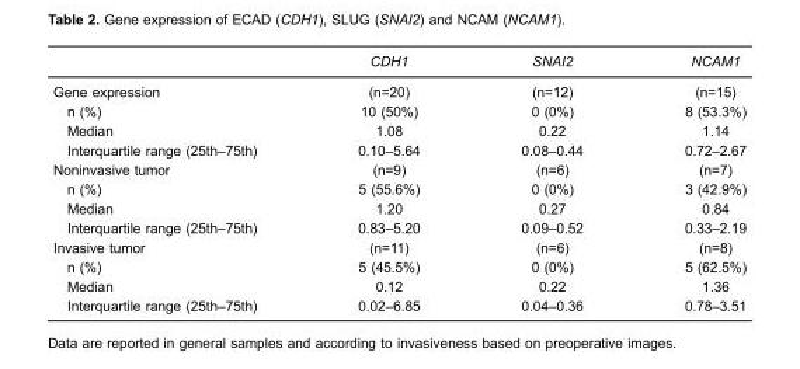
<table><thead><tr><td></td><td>CDH1</td><td>SNAI2</td><td>NCAM1</td></tr></thead><tbody><tr><td>Gene expression</td><td>(n=20)</td><td>(n=12)</td><td>(n=15)</td></tr><tr><td>n (%)</td><td>10 (50%)</td><td>0 (0%)</td><td>8 (53.3%)</td></tr><tr><td>Median</td><td>1.08</td><td>0.22</td><td>1.14</td></tr><tr><td>Interquartile range (25th–75th)</td><td>0.10–5.64</td><td>0.08–0.44</td><td>0.72–2.67</td></tr><tr><td>Noninvasive tumor</td><td>(n=9)</td><td>(n=6)</td><td>(n=7)</td></tr><tr><td>n (%)</td><td>5 (55.6%)</td><td>0 (0%)</td><td>3 (42.9%)</td></tr><tr><td>Median</td><td>1.20</td><td>0.27</td><td>0.84</td></tr><tr><td>Interquartile range (25th–75th)</td><td>0.83–5.20</td><td>0.09–0.52</td><td>0.33–2.19</td></tr><tr><td>Invasive tumor</td><td>(n=11)</td><td>(n=6)</td><td>(n=8)</td></tr><tr><td>n (%)</td><td>5 (45.5%)</td><td>0 (0%)</td><td>5 (62.5%)</td></tr><tr><td>Median</td><td>0.12</td><td>0.22</td><td>1.36</td></tr><tr><td>Interquartile range (25th–75th)</td><td>0.02–6.85</td><td>0.04–0.36</td><td>0.78–3.51</td></tr></tbody></table>